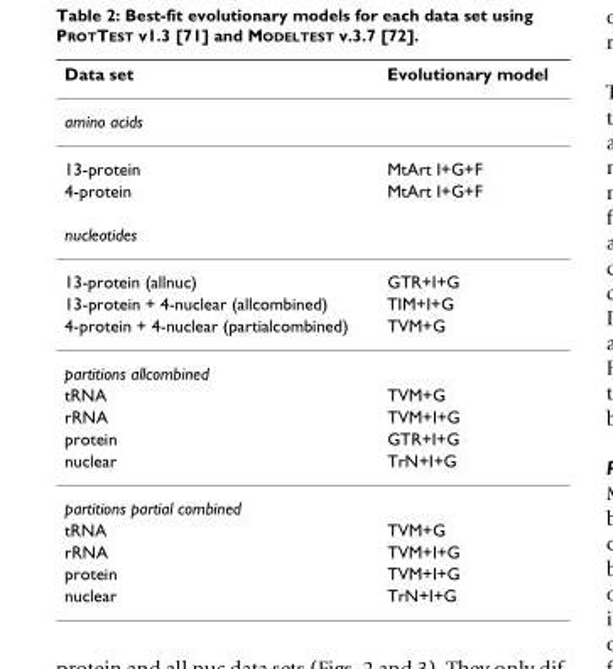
<table><thead><tr><td>Data set</td><td>Evolutionary model</td></tr></thead><tbody><tr><td colspan="2">amino acids</td></tr><tr><td>13-protein</td><td>MtArt I+G+F</td></tr><tr><td>4-protein</td><td>MtArt I+G+F</td></tr><tr><td colspan="2">nucleotides</td></tr><tr><td>13-protein (allnuc)</td><td>GTR+I+G</td></tr><tr><td>13-protein + 4-nuclear (allcombined)</td><td>TIM+I+G</td></tr><tr><td>4-protein + 4-nuclear (partialcombined)</td><td>TVM+G</td></tr><tr><td colspan="2">partitions allcombined</td></tr><tr><td>tRNA</td><td>TVM+G</td></tr><tr><td>rRNA</td><td>TVM+I+G</td></tr><tr><td>protein</td><td>GTR+I+G</td></tr><tr><td>nuclear</td><td>TrN+I+G</td></tr><tr><td colspan="2">partitions partial combined</td></tr><tr><td>tRNA</td><td>TVM+G</td></tr><tr><td>rRNA</td><td>TVM+I+G</td></tr><tr><td>protein</td><td>TVM+I+G</td></tr><tr><td>nuclear</td><td>TrN+I+G</td></tr></tbody></table>